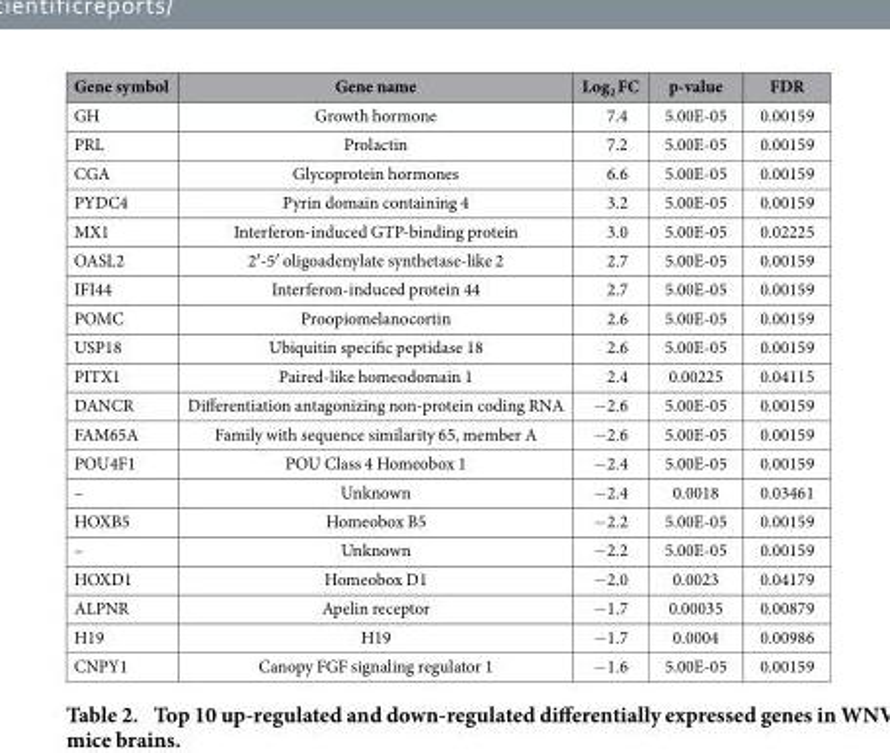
<table><thead><tr><td>Gene symbol</td><td>Gene name</td><td>Log<sub>2</sub> FC</td><td>p-value</td><td>FDR</td></tr></thead><tbody><tr><td>GH</td><td>Growth hormone</td><td>7.4</td><td>5.00E-05</td><td>0.00159</td></tr><tr><td>PRL</td><td>Prolactin</td><td>7.2</td><td>5.00E-05</td><td>0.00159</td></tr><tr><td>CGA</td><td>Glycoprotein hormones</td><td>6.6</td><td>5.00E-05</td><td>0.00159</td></tr><tr><td>PYDC4</td><td>Pyrin domain containing 4</td><td>3.2</td><td>5.00E-05</td><td>0.00159</td></tr><tr><td>MX1</td><td>Interferon-induced GTP-binding protein</td><td>3.0</td><td>5.00E-05</td><td>0.02225</td></tr><tr><td>OASL2</td><td>2′ -5′ oligoadenylate synthetase-like 2</td><td>2.7</td><td>5.00E-05</td><td>0.00159</td></tr><tr><td>IFI44</td><td>Interferon-induced protein 44</td><td>2.7</td><td>5.00E-05</td><td>0.00159</td></tr><tr><td>POMC</td><td>Proopiomelanocortin</td><td>2.6</td><td>5.00E-05</td><td>0.00159</td></tr><tr><td>USP18</td><td>Ubiquitin specific peptidase 18</td><td>2.6</td><td>5.00E-05</td><td>0.00159</td></tr><tr><td>PITX1</td><td>Paired-like homeodomain 1</td><td>2.4</td><td>0.00225</td><td>0.04115</td></tr><tr><td>DANCR</td><td>Differentiation antagonizing non-protein coding RNA</td><td>− 2.6</td><td>5.00E-05</td><td>0.00159</td></tr><tr><td>FAM65A</td><td>Family with sequence similarity 65, member A</td><td>− 2.6</td><td>5.00E-05</td><td>0.00159</td></tr><tr><td>POU4F1</td><td>POU Class 4 Homeobox 1</td><td>− 2.4</td><td>5.00E-05</td><td>0.00159</td></tr><tr><td>–</td><td>Unknown</td><td>− 2.4</td><td>0.0018</td><td>0.03461</td></tr><tr><td>HOXB5</td><td>Homeobox B5</td><td>− 2.2</td><td>5.00E-05</td><td>0.00159</td></tr><tr><td>–</td><td>Unknown</td><td>− 2.2</td><td>5.00E-05</td><td>0.00159</td></tr><tr><td>HOXD1</td><td>Homeobox D1</td><td>− 2.0</td><td>0.0023</td><td>0.04179</td></tr><tr><td>ALPNR</td><td>Apelin receptor</td><td>− 1.7</td><td>0.00035</td><td>0.00879</td></tr><tr><td>H19</td><td>H19</td><td>− 1.7</td><td>0.0004</td><td>0.00986</td></tr><tr><td>CNPY1</td><td>Canopy FGF signaling regulator 1</td><td>− 1.6</td><td>5.00E-05</td><td>0.00159</td></tr></tbody></table>